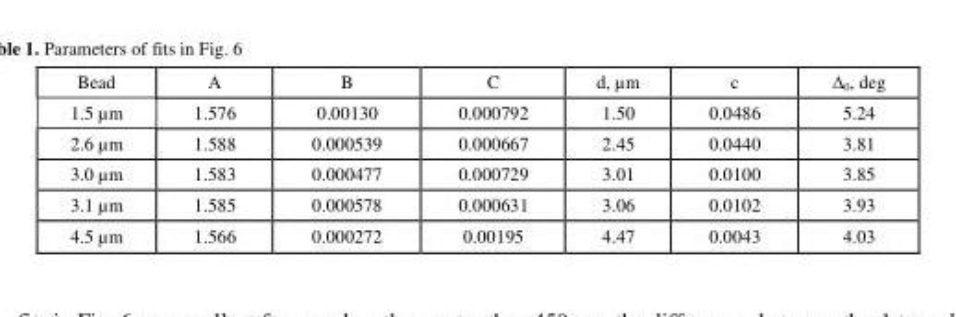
<table><thead><tr><td>Bead</td><td>A</td><td>B</td><td>C</td><td>d, µm</td><td>c</td><td>Δ<sub>0</sub>, deg</td></tr></thead><tbody><tr><td>1.5 µm</td><td>1.576</td><td>0.00130</td><td>0.000792</td><td>1.50</td><td>0.0486</td><td>5.24</td></tr><tr><td>2.6 µm</td><td>1.588</td><td>0.000539</td><td>0.000667</td><td>2.45</td><td>0.0440</td><td>3.81</td></tr><tr><td>3.0 µm</td><td>1.583</td><td>0.000477</td><td>0.000729</td><td>3.01</td><td>0.0100</td><td>3.85</td></tr><tr><td>3.1 µm</td><td>1.585</td><td>0.000578</td><td>0.000631</td><td>3.06</td><td>0.0102</td><td>3.93</td></tr><tr><td>4.5 µm</td><td>1.566</td><td>0.000272</td><td>0.00195</td><td>4.47</td><td>0.0043</td><td>4.03</td></tr></tbody></table>